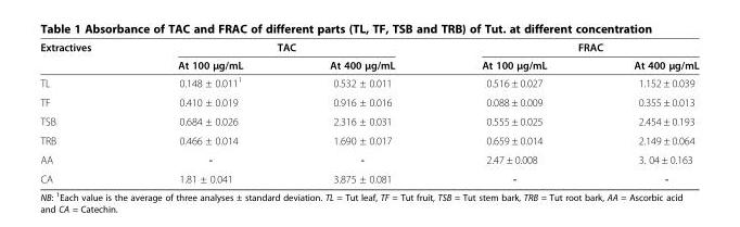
<table><thead><tr><td rowspan="2">Extractives</td><td colspan="2">TAC</td><td colspan="2">FRAC</td></tr><tr><td>At 100 μg/mL</td><td>At 400 μg/mL</td><td>At 100 μg/mL</td><td>At 400 μg/mL</td></tr></thead><tbody><tr><td>TL</td><td>0.148 ± 0.011<sup>1</sup></td><td>0.532 ± 0.011</td><td>0.516 ± 0.027</td><td>1.152 ± 0.039</td></tr><tr><td>TF</td><td>0.410 ± 0.019</td><td>0.916 ± 0.016</td><td>0.088 ± 0.009</td><td>0.355 ± 0.013</td></tr><tr><td>TSB</td><td>0.684 ± 0.026</td><td>2.316 ± 0.031</td><td>0.555 ± 0.025</td><td>2.454 ± 0.193</td></tr><tr><td>TRB</td><td>0.466 ± 0.014</td><td>1.690 ± 0.017</td><td>0.659 ± 0.014</td><td>2.149 ± 0.064</td></tr><tr><td>AA</td><td>-</td><td>-</td><td>2.47 ± 0.008</td><td>3. 04 ± 0.163</td></tr><tr><td>CA</td><td>1.81 ± 0.041</td><td>3.875 ± 0.081</td><td>-</td><td>-</td></tr></tbody></table>